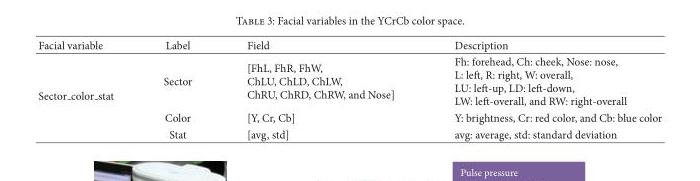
<table><thead><tr><td>Facial variable</td><td>Label</td><td>Field</td><td>Description</td></tr></thead><tbody><tr><td rowspan="3">Sector <sub>color</sub> stat</td><td>Sector</td><td>[FhL, FhR, FhW, ChLU, ChLD, ChLW, ChRU, ChRD, ChRW, and Nose]</td><td>Fh: forehead, Ch: cheek, Nose: nose, L: left, R: right, W: overall, LU: left-up, LD: left-down, LW: left-overall, and RW: right-overall</td></tr><tr><td>Color</td><td>[Y, Cr, Cb]</td><td>Y: brightness, Cr: red color, and Cb: blue color</td></tr><tr><td>Stat</td><td>[avg, std]</td><td>avg: average, std: standard deviation</td></tr></tbody></table>